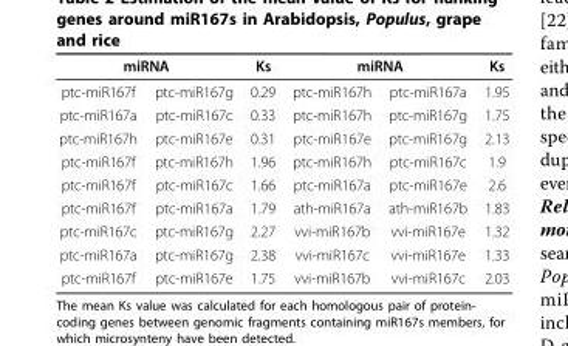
<table><thead><tr><td colspan="2">miRNA</td><td rowspan="2">Ks 0.29</td><td colspan="2">miRNA</td><td rowspan="2">Ks 1.95</td></tr><tr><td>ptc-miR167f</td><td>ptc-miR167g</td><td>ptc-miR167h</td><td>ptc-miR167a</td></tr></thead><tbody><tr><td>ptc-miR167a</td><td>ptc-miR167c</td><td>0.33</td><td>ptc-miR167h</td><td>ptc-miR167g</td><td>1.75</td></tr><tr><td>ptc-miR167h</td><td>ptc-miR167e</td><td>0.31</td><td>ptc-miR167e</td><td>ptc-miR167g</td><td>2.13</td></tr><tr><td>ptc-miR167f</td><td>ptc-miR167h</td><td>1.96</td><td>ptc-miR167h</td><td>ptc-miR167c</td><td>1.9</td></tr><tr><td>ptc-miR167f</td><td>ptc-miR167c</td><td>1.66</td><td>ptc-miR167a</td><td>ptc-miR167e</td><td>2.6</td></tr><tr><td>ptc-miR167f</td><td>ptc-miR167a</td><td>1.79</td><td>ath-miR167a</td><td>ath-miR167b</td><td>1.83</td></tr><tr><td>ptc-miR167c</td><td>ptc-miR167g</td><td>2.27</td><td>vvi-miR167b</td><td>vvi-miR167e</td><td>1.32</td></tr><tr><td>ptc-miR167a</td><td>ptc-miR167g</td><td>2.38</td><td>vvi-miR167c</td><td>vvi-miR167e</td><td>1.33</td></tr><tr><td>ptc-miR167f</td><td>ptc-miR167e</td><td>1.75</td><td>vvi-miR167b</td><td>vvi-miR167c</td><td>2.03</td></tr></tbody></table>